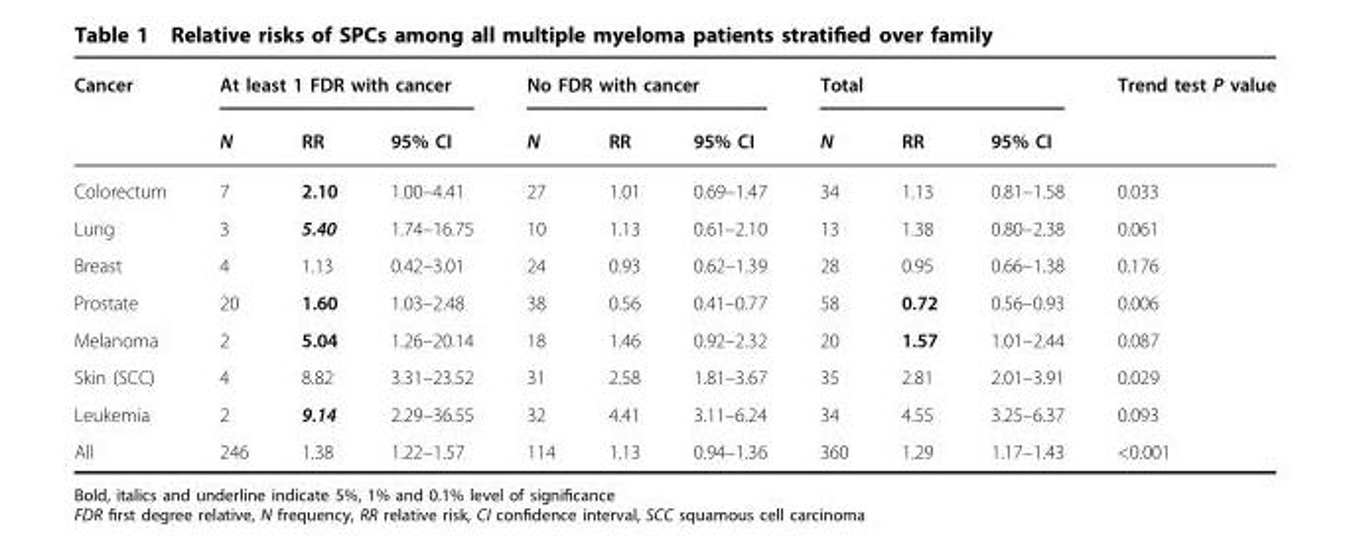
<table><thead><tr><td rowspan="2">Cancer</td><td colspan="3">At least 1 FDR with cancer</td><td colspan="3">No FDR with cancer</td><td colspan="3">Total</td><td rowspan="2">Trend test P value</td></tr><tr><td>N</td><td>RR</td><td>95% CI</td><td>N</td><td>RR</td><td>95% CI</td><td>N</td><td>RR</td><td>95% CI</td></tr></thead><tbody><tr><td>Colorectum</td><td>7</td><td>2.10</td><td>1.00–4.41</td><td>27</td><td>1.01</td><td>0.69–1.47</td><td>34</td><td>1.13</td><td>0.81–1.58</td><td>0.033</td></tr><tr><td>Lung</td><td>3</td><td>5.40</td><td>1.74–16.75</td><td>10</td><td>1.13</td><td>0.61–2.10</td><td>13</td><td>1.38</td><td>0.80–2.38</td><td>0.061</td></tr><tr><td>Breast</td><td>4</td><td>1.13</td><td>0.42–3.01</td><td>24</td><td>0.93</td><td>0.62–1.39</td><td>28</td><td>0.95</td><td>0.66–1.38</td><td>0.176</td></tr><tr><td>Prostate</td><td>20</td><td>1.60</td><td>1.03–2.48</td><td>38</td><td>0.56</td><td>0.41–0.77</td><td>58</td><td>0.72</td><td>0.56–0.93</td><td>0.006</td></tr><tr><td>Melanoma</td><td>2</td><td>5.04</td><td>1.26–20.14</td><td>18</td><td>1.46</td><td>0.92–2.32</td><td>20</td><td>1.57</td><td>1.01–2.44</td><td>0.087</td></tr><tr><td>Skin (SCC)</td><td>4</td><td>8.82</td><td>3.31–23.52</td><td>31</td><td>2.58</td><td>1.81–3.67</td><td>35</td><td>2.81</td><td>2.01–3.91</td><td>0.029</td></tr><tr><td>Leukemia</td><td>2</td><td>9.14</td><td>2.29–36.55</td><td>32</td><td>4.41</td><td>3.11–6.24</td><td>34</td><td>4.55</td><td>3.25–6.37</td><td>0.093</td></tr><tr><td>All</td><td>246</td><td>1.38</td><td>1.22–1.57</td><td>114</td><td>1.13</td><td>0.94–1.36</td><td>360</td><td>1.29</td><td>1.17–1.43</td><td>&lt;0.001</td></tr></tbody></table>